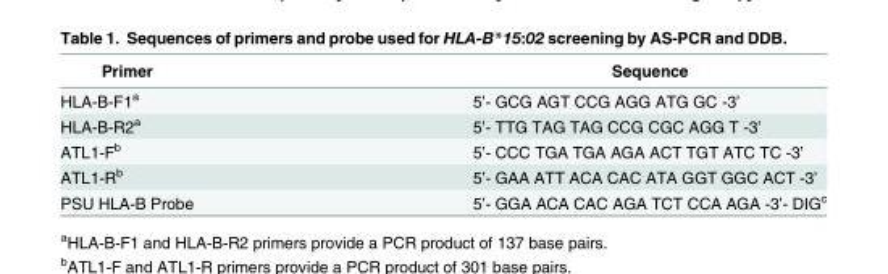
<table><thead><tr><td>Primer</td><td>Sequence</td></tr></thead><tbody><tr><td>HLA-B-F1<sup>a</sup></td><td>5’- GCG AGT CCG AGG ATG GC -3’</td></tr><tr><td>HLA-B-R2<sup>a</sup></td><td>5’- TTG TAG TAG CCG CGC AGG T -3’</td></tr><tr><td>ATL1-F<sup>b</sup></td><td>5’- CCC TGA TGA AGA ACT TGT ATC TC -3’</td></tr><tr><td>ATL1-R<sup>b</sup></td><td>5’- GAA ATT ACA CAC ATA GGT GGC ACT -3’</td></tr><tr><td>PSU HLA-B Probe</td><td>5’- GGA ACA CAC AGA TCT CCA AGA -3’- DIG<sup>c</sup></td></tr></tbody></table>